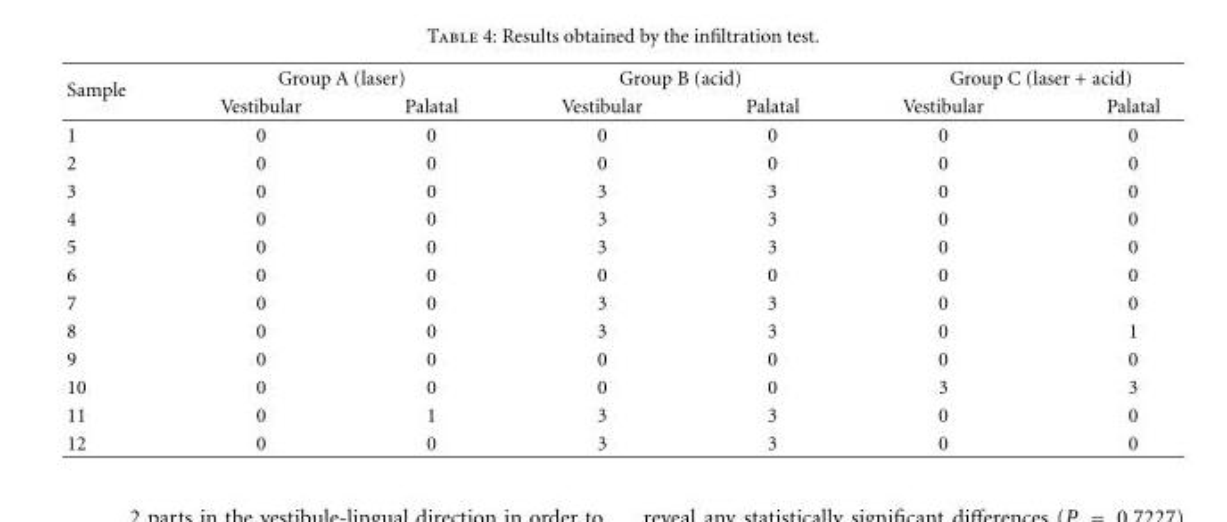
<table><thead><tr><td rowspan="2">Sample</td><td colspan="2">Group A (laser)</td><td colspan="2">Group B (acid)</td><td colspan="2">Group C (laser + acid)</td></tr><tr><td>Vestibular</td><td>Palatal</td><td>Vestibular</td><td>Palatal</td><td>Vestibular</td><td>Palatal</td></tr></thead><tbody><tr><td>1</td><td>0</td><td>0</td><td>0</td><td>0</td><td>0</td><td>0</td></tr><tr><td>2</td><td>0</td><td>0</td><td>0</td><td>0</td><td>0</td><td>0</td></tr><tr><td>3</td><td>0</td><td>0</td><td>3</td><td>3</td><td>0</td><td>0</td></tr><tr><td>4</td><td>0</td><td>0</td><td>3</td><td>3</td><td>0</td><td>0</td></tr><tr><td>5</td><td>0</td><td>0</td><td>3</td><td>3</td><td>0</td><td>0</td></tr><tr><td>6</td><td>0</td><td>0</td><td>0</td><td>0</td><td>0</td><td>0</td></tr><tr><td>7</td><td>0</td><td>0</td><td>3</td><td>3</td><td>0</td><td>0</td></tr><tr><td>8</td><td>0</td><td>0</td><td>3</td><td>3</td><td>0</td><td>1</td></tr><tr><td>9</td><td>0</td><td>0</td><td>0</td><td>0</td><td>0</td><td>0</td></tr><tr><td>10</td><td>0</td><td>0</td><td>0</td><td>0</td><td>3</td><td>3</td></tr><tr><td>11</td><td>0</td><td>1</td><td>3</td><td>3</td><td>0</td><td>0</td></tr><tr><td>12</td><td>0</td><td>0</td><td>3</td><td>3</td><td>0</td><td>0</td></tr></tbody></table>